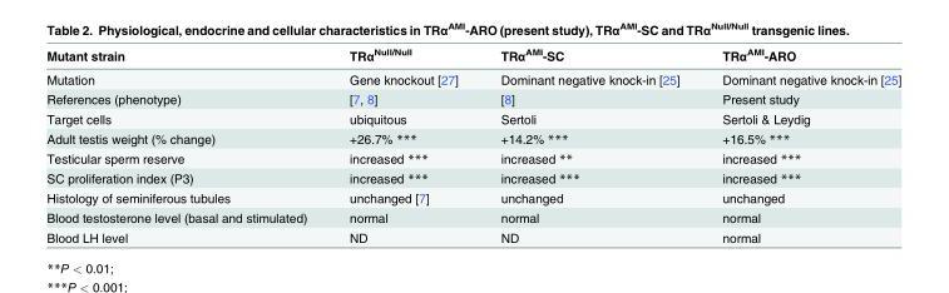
<table><thead><tr><td>Mutant strain</td><td>TRα<sup>Null/Null</sup></td><td>TRα<sup>AMI</sup>-SC</td><td>TRα<sup>AMI</sup>-ARO</td></tr></thead><tbody><tr><td>Mutation</td><td>Gene knockout [27]</td><td>Dominant negative knock-in [25]</td><td>Dominant negative knock-in [25]</td></tr><tr><td>References (phenotype)</td><td>[7, 8]</td><td>[8]</td><td>Present study</td></tr><tr><td>Target cells</td><td>ubiquitous</td><td>Sertoli</td><td>Sertoli &amp; Leydig</td></tr><tr><td>Adult testis weight (% change)</td><td>+26.7% ***</td><td>+14.2% ***</td><td>+16.5% ***</td></tr><tr><td>Testicular sperm reserve</td><td>increased ***</td><td>increased **</td><td>increased ***</td></tr><tr><td>SC proliferation index (P3)</td><td>increased ***</td><td>increased ***</td><td>increased ***</td></tr><tr><td>Histology of seminiferous tubules</td><td>unchanged [7]</td><td>unchanged</td><td>unchanged</td></tr><tr><td>Blood testosterone level (basal and stimulated)</td><td>normal</td><td>normal</td><td>normal</td></tr><tr><td>Blood LH level</td><td>ND</td><td>ND</td><td>normal</td></tr></tbody></table>